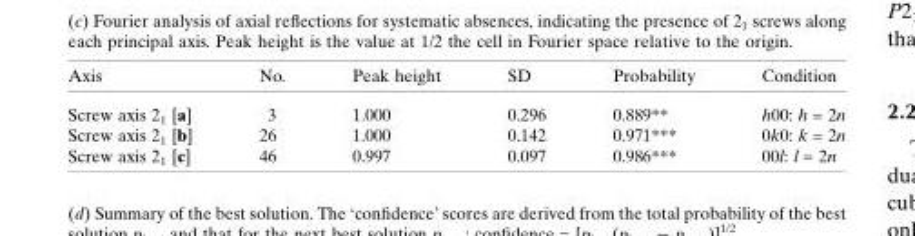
<table><thead><tr><td>Axis</td><td>No.</td><td>Peak height</td><td>SD</td><td>Probability</td><td>Condition</td></tr></thead><tbody><tr><td>Screw axis 2<sub>1</sub> [a]</td><td>3</td><td>1.000</td><td>0.296</td><td>0.889**</td><td>h00: h = 2n</td></tr><tr><td>Screw axis 2<sub>1</sub> [b]</td><td>26</td><td>1.000</td><td>0.142</td><td>0.971***</td><td>0k0: k = 2n</td></tr><tr><td>Screw axis 2<sub>1</sub> [c]</td><td>46</td><td>0.997</td><td>0.097</td><td>0.986***</td><td>00l: l = 2n</td></tr></tbody></table>